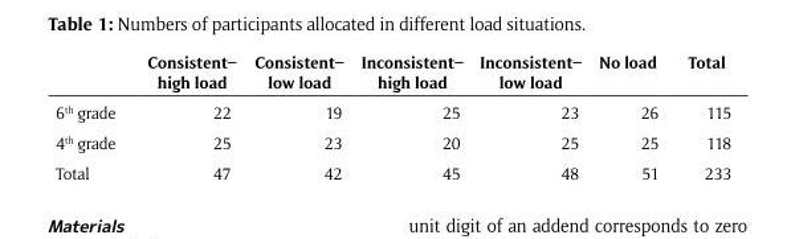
<table><thead><tr><td></td><td>Consistent– high load</td><td>Consistent– low load</td><td>Inconsistent– high load</td><td>Inconsistent– low load</td><td>No load</td><td>Total</td></tr></thead><tbody><tr><td>6<sup>th</sup> grade</td><td>22</td><td>19</td><td>25</td><td>23</td><td>26</td><td>115</td></tr><tr><td>4<sup>th</sup> grade</td><td>25</td><td>23</td><td>20</td><td>25</td><td>25</td><td>118</td></tr><tr><td>Total</td><td>47</td><td>42</td><td>45</td><td>48</td><td>51</td><td>233</td></tr></tbody></table>